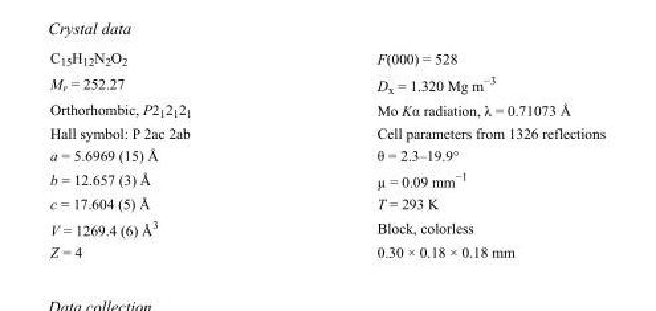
<table><tbody><tr><td>C<sub>15</sub>H<sub>12</sub>N<sub>2</sub>O<sub>2</sub></td><td>F(000) = 528</td></tr><tr><td>M<sub>r</sub> = 252.27</td><td>D<sub>x</sub> = 1.320 Mg m<sup>−3</sup></td></tr><tr><td>Orthorhombic, P2<sub>1</sub>2<sub>1</sub>2<sub>1</sub></td><td>Mo Kα radiation, λ = 0.71073 Å</td></tr><tr><td>Hall symbol: P 2ac 2ab</td><td>Cell parameters from 1326 reflections</td></tr><tr><td>a = 5.6969 (15) Å</td><td>θ = 2.3–19.9°</td></tr><tr><td>b = 12.657 (3) Å</td><td>µ = 0.09 mm<sup>−1</sup></td></tr><tr><td>c = 17.604 (5) Å</td><td>T = 293 K</td></tr><tr><td>V = 1269.4 (6) Å<sup>3</sup></td><td>Block, colorless</td></tr><tr><td>Z = 4</td><td>0.30 × 0.18 × 0.18 mm</td></tr></tbody></table>